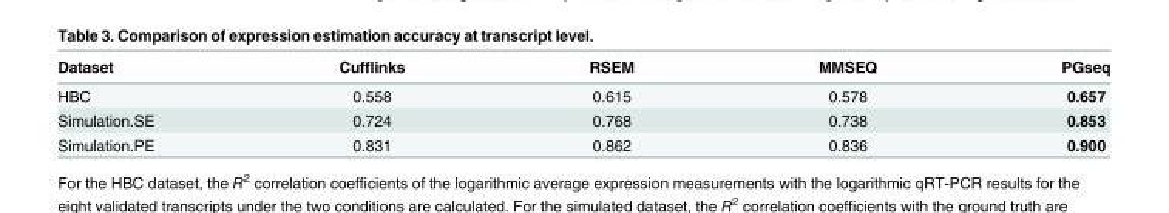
<table><thead><tr><td>Dataset</td><td>Cufflinks</td><td>RSEM</td><td>MMSEQ</td><td>PGseq</td></tr></thead><tbody><tr><td>HBC</td><td>0.558</td><td>0.615</td><td>0.578</td><td>0.657</td></tr><tr><td>Simulation.SE</td><td>0.724</td><td>0.768</td><td>0.738</td><td>0.853</td></tr><tr><td>Simulation.PE</td><td>0.831</td><td>0.862</td><td>0.836</td><td>0.900</td></tr></tbody></table>